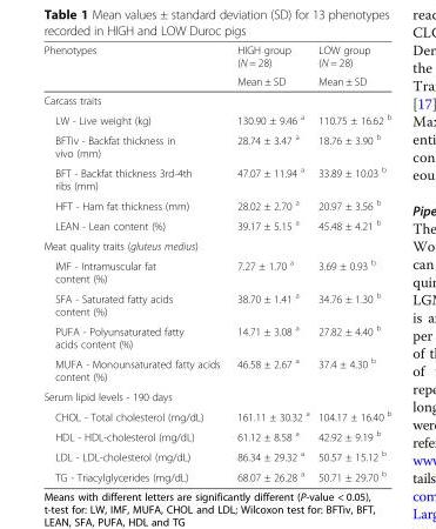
<table><thead><tr><td rowspan="2">Phenotypes</td><td rowspan="2">HIGH group (N = 28) Mean ± SD</td><td rowspan="2">LOW group (N = 28) Mean ± SD</td></tr><tr></tr></thead><tbody><tr><td colspan="3">Carcass traits</td></tr><tr><td>LW - Live weight (kg)</td><td>130.90 ± 9.46 <sup>a</sup></td><td>110.75 ± 16.62 <sup>b</sup></td></tr><tr><td>BFTiv - Backfat thickness in vivo (mm)</td><td>28.74 ± 3.47 <sup>a</sup></td><td>18.76 ± 3.90 <sup>b</sup></td></tr><tr><td>BFT - Backfat thickness 3rd-4th ribs (mm)</td><td>47.07 ± 11.94 <sup>a</sup></td><td>33.89 ± 10.03 <sup>b</sup></td></tr><tr><td>HFT - Ham fat thickness (mm)</td><td>28.02 ± 2.70 <sup>a</sup></td><td>20.97 ± 3.56 <sup>b</sup></td></tr><tr><td>LEAN - Lean content (%)</td><td>39.17 ± 5.15 <sup>a</sup></td><td>45.48 ± 4.21 <sup>b</sup></td></tr><tr><td colspan="3">Meat quality traits (gluteus medius)</td></tr><tr><td>IMF - Intramuscular fat content (%)</td><td>7.27 ± 1.70 <sup>a</sup></td><td>3.69 ± 0.93 <sup>b</sup></td></tr><tr><td>SFA - Saturated fatty acids content (%)</td><td>38.70 ± 1.41 <sup>a</sup></td><td>34.76 ± 1.30 <sup>b</sup></td></tr><tr><td>PUFA - Polyunsaturated fatty acids content (%)</td><td>14.71 ± 3.08 <sup>a</sup></td><td>27.82 ± 4.40 <sup>b</sup></td></tr><tr><td>MUFA - Monounsaturated fatty acids content (%)</td><td>46.58 ± 2.67 <sup>a</sup></td><td>37.4 ± 4.30 <sup>b</sup></td></tr><tr><td colspan="3">Serum lipid levels - 190 days</td></tr><tr><td>CHOL - Total cholesterol (mg/dL)</td><td>161.11 ± 30.32 <sup>a</sup></td><td>104.17 ± 16.40 <sup>b</sup></td></tr><tr><td>HDL - HDL-cholesterol (mg/dL)</td><td>61.12 ± 8.58 <sup>a</sup></td><td>42.92 ± 9.19 <sup>b</sup></td></tr><tr><td>LDL - LDL-cholesterol (mg/dL)</td><td>86.34 ± 29.32 <sup>a</sup></td><td>50.57 ± 15.12 <sup>b</sup></td></tr><tr><td>TG - Triacylglycerides (mg/dL)</td><td>68.07 ± 26.28 <sup>a</sup></td><td>50.71 ± 29.70 <sup>b</sup></td></tr></tbody></table>